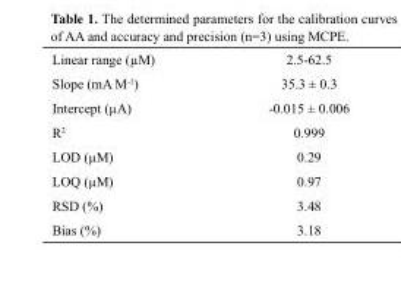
<table><tbody><tr><td>Linear range (µM)</td><td>2.5-62.5</td></tr><tr><td>Slope (mA M<sup>-1</sup>)</td><td>35.3 ± 0.3</td></tr><tr><td>Intercept (µA)</td><td>-0.015 ± 0.006</td></tr><tr><td>R<sup>2</sup></td><td>0.999</td></tr><tr><td>LOD (µM)</td><td>0.29</td></tr><tr><td>LOQ (µM)</td><td>0.97</td></tr><tr><td>RSD (%)</td><td>3.48</td></tr><tr><td>Bias (%)</td><td>3.18</td></tr></tbody></table>